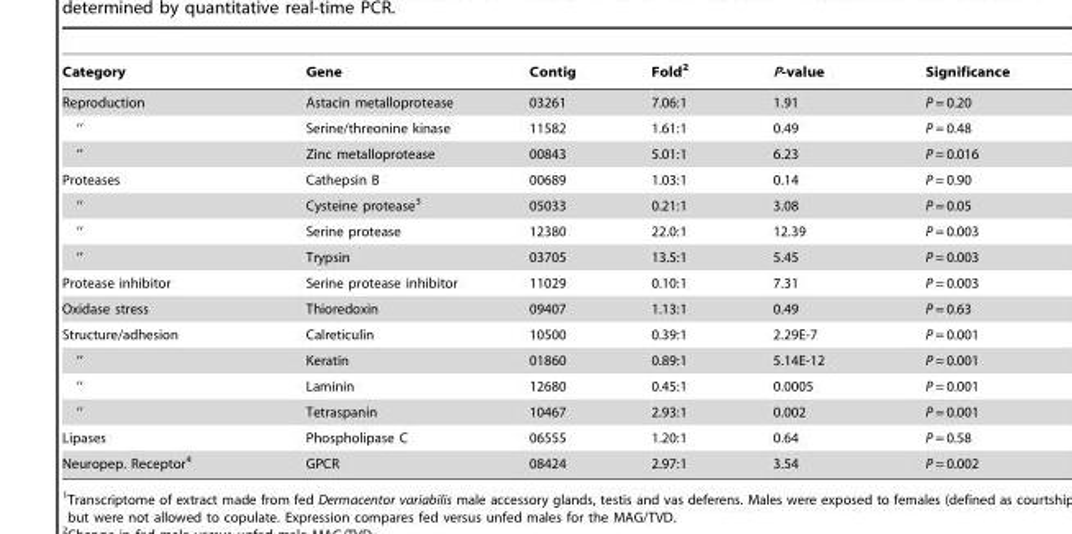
<table><thead><tr><td>Category</td><td>Gene</td><td>Contig</td><td>Fold<sup>2</sup></td><td>P-value</td><td>Significance</td></tr></thead><tbody><tr><td>Reproduction</td><td>Astacin metalloprotease</td><td>03261</td><td>7.06:1</td><td>1.91</td><td>P = 0.20</td></tr><tr><td>‘‘</td><td>Serine/threonine kinase</td><td>11582</td><td>1.61:1</td><td>0.49</td><td>P = 0.48</td></tr><tr><td>‘‘</td><td>Zinc metalloprotease</td><td>00843</td><td>5.01:1</td><td>6.23</td><td>P = 0.016</td></tr><tr><td>Proteases</td><td>Cathepsin B</td><td>00689</td><td>1.03:1</td><td>0.14</td><td>P = 0.90</td></tr><tr><td>‘‘</td><td>Cysteine protease<sup>3</sup></td><td>05033</td><td>0.21:1</td><td>3.08</td><td>P = 0.05</td></tr><tr><td>‘‘</td><td>Serine protease</td><td>12380</td><td>22.0:1</td><td>12.39</td><td>P = 0.003</td></tr><tr><td>‘‘</td><td>Trypsin</td><td>03705</td><td>13.5:1</td><td>5.45</td><td>P = 0.003</td></tr><tr><td>Protease inhibitor</td><td>Serine protease inhibitor</td><td>11029</td><td>0.10:1</td><td>7.31</td><td>P = 0.003</td></tr><tr><td>Oxidase stress</td><td>Thioredoxin</td><td>09407</td><td>1.13:1</td><td>0.49</td><td>P = 0.63</td></tr><tr><td>Structure/adhesion</td><td>Calreticulin</td><td>10500</td><td>0.39:1</td><td>2.29E-7</td><td>P = 0.001</td></tr><tr><td>‘‘</td><td>Keratin</td><td>01860</td><td>0.89:1</td><td>5.14E-12</td><td>P = 0.001</td></tr><tr><td>‘‘</td><td>Laminin</td><td>12680</td><td>0.45:1</td><td>0.0005</td><td>P = 0.001</td></tr><tr><td>‘‘</td><td>Tetraspanin</td><td>10467</td><td>2.93:1</td><td>0.002</td><td>P = 0.001</td></tr><tr><td>Lipases</td><td>Phospholipase C</td><td>06555</td><td>1.20:1</td><td>0.64</td><td>P = 0.58</td></tr><tr><td>Neuropep. Receptor<sup>4</sup></td><td>GPCR</td><td>08424</td><td>2.97:1</td><td>3.54</td><td>P = 0.002</td></tr></tbody></table>